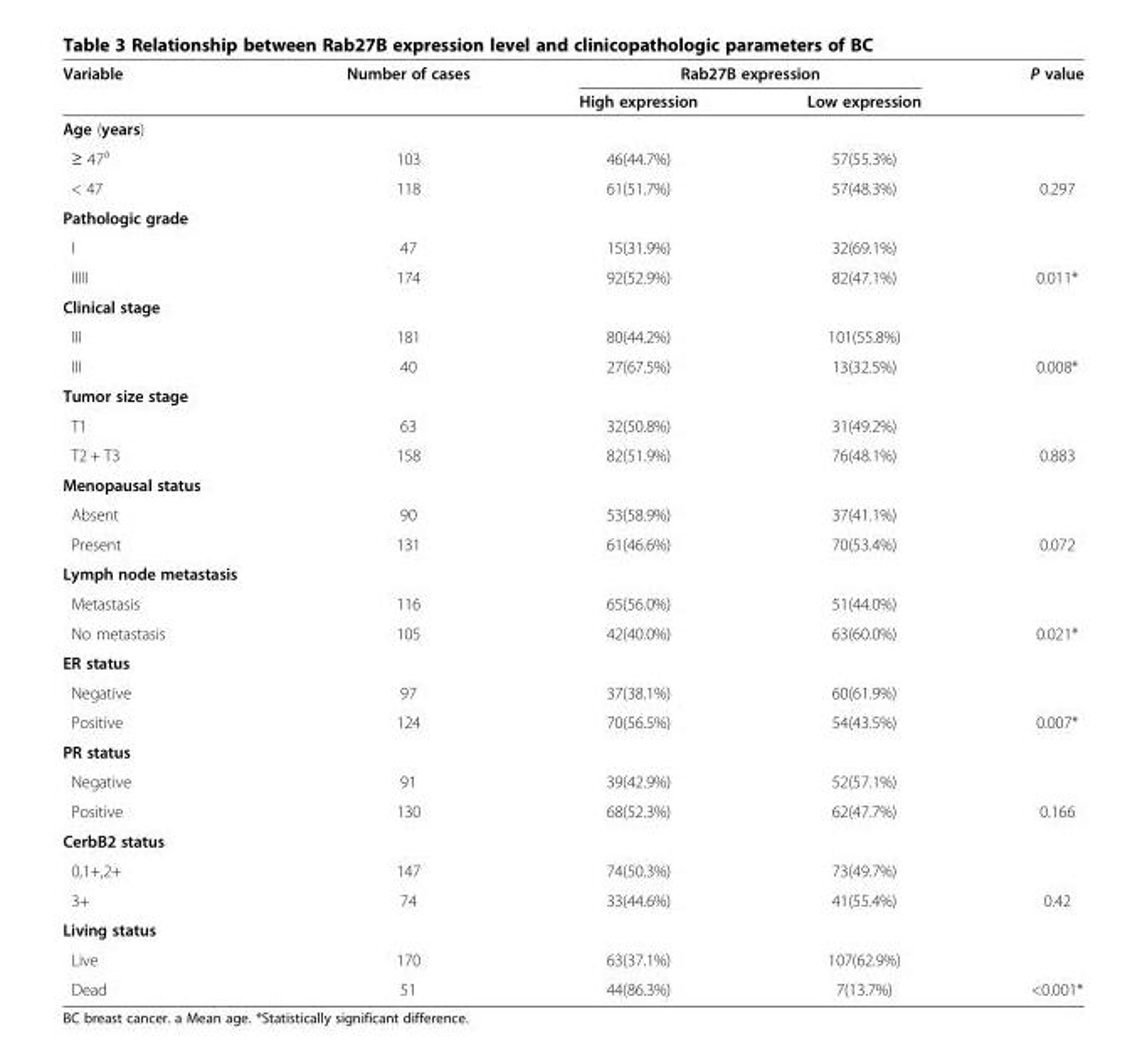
<table><thead><tr><td rowspan="2">Variable</td><td rowspan="2">Number of cases</td><td colspan="2">Rab27B expression</td><td rowspan="2">P value</td></tr><tr><td>High expression</td><td>Low expression</td></tr></thead><tbody><tr><td colspan="5">Age (years)</td></tr><tr><td>≥ 47<sup>a</sup></td><td>103</td><td>46(44.7%)</td><td>57(55.3%)</td><td></td></tr><tr><td>&lt; 47</td><td>118</td><td>61(51.7%)</td><td>57(48.3%)</td><td>0.297</td></tr><tr><td colspan="5">Pathologic grade</td></tr><tr><td>I</td><td>47</td><td>15(31.9%)</td><td>32(69.1%)</td><td></td></tr><tr><td>IIIII</td><td>174</td><td>92(52.9%)</td><td>82(47.1%)</td><td>0.011*</td></tr><tr><td colspan="5">Clinical stage</td></tr><tr><td>III</td><td>181</td><td>80(44.2%)</td><td>101(55.8%)</td><td></td></tr><tr><td>III</td><td>40</td><td>27(67.5%)</td><td>13(32.5%)</td><td>0.008*</td></tr><tr><td colspan="5">Tumor size stage</td></tr><tr><td>T1</td><td>63</td><td>32(50.8%)</td><td>31(49.2%)</td><td></td></tr><tr><td>T2 + T3</td><td>158</td><td>82(51.9%)</td><td>76(48.1%)</td><td>0.883</td></tr><tr><td colspan="5">Menopausal status</td></tr><tr><td>Absent</td><td>90</td><td>53(58.9%)</td><td>37(41.1%)</td><td></td></tr><tr><td>Present</td><td>131</td><td>61(46.6%)</td><td>70(53.4%)</td><td>0.072</td></tr><tr><td colspan="5">Lymph node metastasis</td></tr><tr><td>Metastasis</td><td>116</td><td>65(56.0%)</td><td>51(44.0%)</td><td></td></tr><tr><td>No metastasis</td><td>105</td><td>42(40.0%)</td><td>63(60.0%)</td><td>0.021*</td></tr><tr><td colspan="5">ER status</td></tr><tr><td>Negative</td><td>97</td><td>37(38.1%)</td><td>60(61.9%)</td><td></td></tr><tr><td>Positive</td><td>124</td><td>70(56.5%)</td><td>54(43.5%)</td><td>0.007*</td></tr><tr><td colspan="5">PR status</td></tr><tr><td>Negative</td><td>91</td><td>39(42.9%)</td><td>52(57.1%)</td><td></td></tr><tr><td>Positive</td><td>130</td><td>68(52.3%)</td><td>62(47.7%)</td><td>0.166</td></tr><tr><td colspan="5">CerbB2 status</td></tr><tr><td>0,1+,2+</td><td>147</td><td>74(50.3%)</td><td>73(49.7%)</td><td></td></tr><tr><td>3+</td><td>74</td><td>33(44.6%)</td><td>41(55.4%)</td><td>0.42</td></tr><tr><td colspan="5">Living status</td></tr><tr><td>Live</td><td>170</td><td>63(37.1%)</td><td>107(62.9%)</td><td></td></tr><tr><td>Dead</td><td>51</td><td>44(86.3%)</td><td>7(13.7%)</td><td>&lt;0.001*</td></tr></tbody></table>